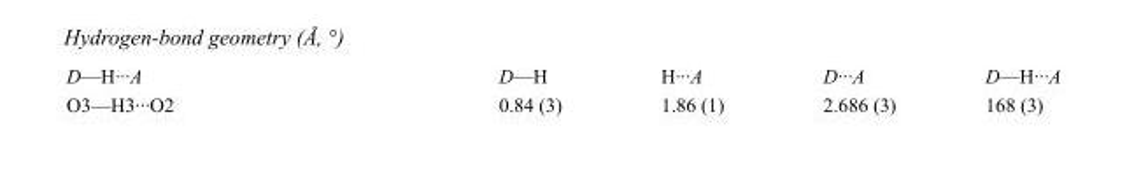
<table><tbody><tr><td>D—H···A</td><td>D—H</td><td>H···A</td><td>D···A</td><td>D—H···A</td></tr><tr><td>O3—H3···O2</td><td>0.84 (3)</td><td>1.86 (1)</td><td>2.686 (3)</td><td>168 (3)</td></tr></tbody></table>